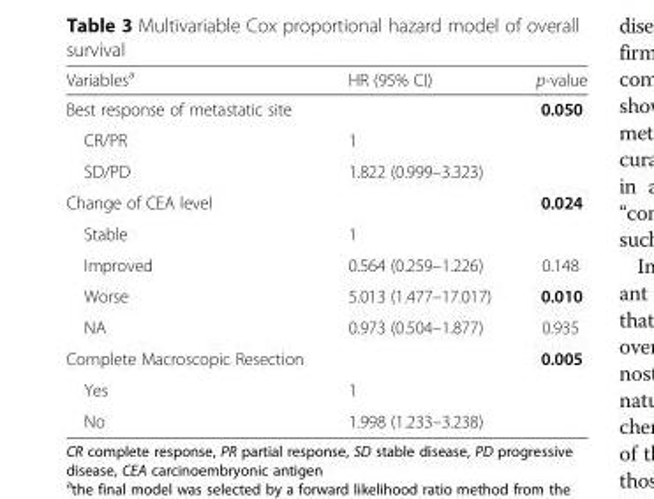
<table><thead><tr><td>Variables<sup>a</sup></td><td>HR (95% CI)</td><td>p-value</td></tr></thead><tbody><tr><td>Best response of metastatic site</td><td></td><td>0.050</td></tr><tr><td>CR/PR</td><td>1</td><td></td></tr><tr><td>SD/PD</td><td>1.822 (0.999–3.323)</td><td></td></tr><tr><td>Change of CEA level</td><td></td><td>0.024</td></tr><tr><td>Stable</td><td>1</td><td></td></tr><tr><td>Improved</td><td>0.564 (0.259–1.226)</td><td>0.148</td></tr><tr><td>Worse</td><td>5.013 (1.477–17.017)</td><td>0.010</td></tr><tr><td>NA</td><td>0.973 (0.504–1.877)</td><td>0.935</td></tr><tr><td>Complete Macroscopic Resection</td><td></td><td>0.005</td></tr><tr><td>Yes</td><td>1</td><td></td></tr><tr><td>No</td><td>1.998 (1.233–3.238)</td><td></td></tr></tbody></table>